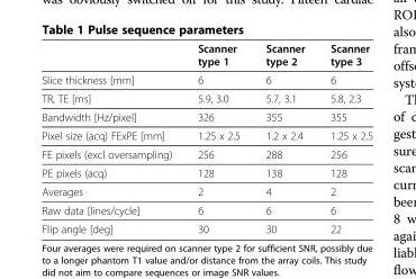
<table><thead><tr><td></td><td>Scanner type 1</td><td>Scanner type 2</td><td>Scanner type 3</td></tr></thead><tbody><tr><td>Slice thickness [mm]</td><td>6</td><td>6</td><td>6</td></tr><tr><td>TR, TE [ms]</td><td>5.9, 3.0</td><td>5.7, 3.1</td><td>5.8, 2.3</td></tr><tr><td>Bandwidth [Hz/pixel]</td><td>326</td><td>355</td><td>355</td></tr><tr><td>Pixel size (acq) FExPE [mm]</td><td>1.25 x 2.5</td><td>1.2 x 2.4</td><td>1.25 x 2.5</td></tr><tr><td>FE pixels (excl oversampling)</td><td>256</td><td>288</td><td>256</td></tr><tr><td>PE pixels (acq)</td><td>128</td><td>138</td><td>128</td></tr><tr><td>Averages</td><td>2</td><td>4</td><td>2</td></tr><tr><td>Raw data [lines/cycle]</td><td>6</td><td>6</td><td>6</td></tr><tr><td>Flip angle [deg]</td><td>30</td><td>30</td><td>22</td></tr></tbody></table>